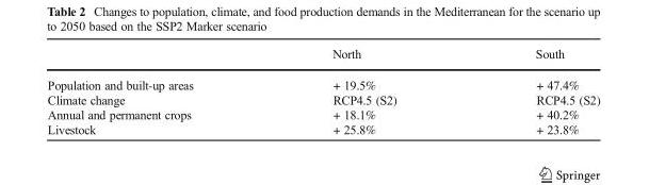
<table><thead><tr><td></td><td>North</td><td>South</td></tr></thead><tbody><tr><td>Population and built-up areas</td><td>+ 19.5%</td><td>+ 47.4%</td></tr><tr><td>Climate change</td><td>RCP4.5 (S2)</td><td>RCP4.5 (S2)</td></tr><tr><td>Annual and permanent crops</td><td>+ 18.1%</td><td>+ 40.2%</td></tr><tr><td>Livestock</td><td>+ 25.8%</td><td>+ 23.8%</td></tr></tbody></table>